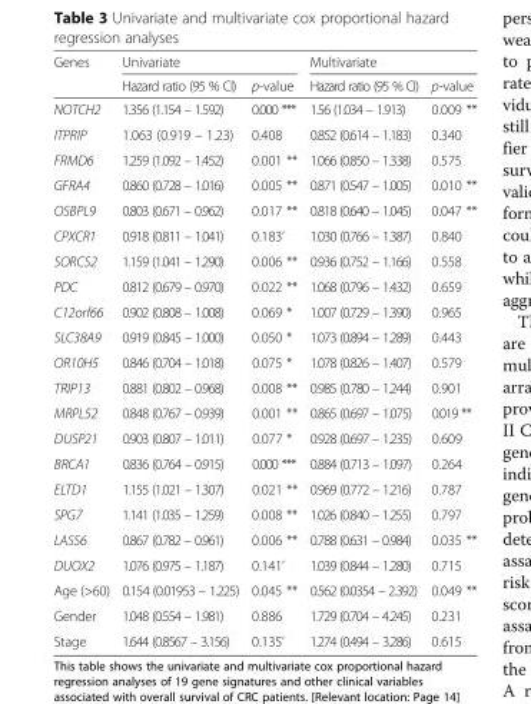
<table><thead><tr><td rowspan="2">Genes</td><td colspan="2">Univariate</td><td colspan="2">Multivariate</td></tr><tr><td>Hazard ratio (95 % CI)</td><td>p-value</td><td>Hazard ratio (95 % CI)</td><td>p-value</td></tr></thead><tbody><tr><td>NOTCH2</td><td>1.356 (1.154 – 1.592)</td><td>0.000 ***</td><td>1.56 (1.034 – 1.913)</td><td>0.009 **</td></tr><tr><td>ITPRIP</td><td>1.063 (0.919 – 1.23)</td><td>0.408</td><td>0.852 (0.614 – 1.183)</td><td>0.340</td></tr><tr><td>FRMD6</td><td>1.259 (1.092 – 1.452)</td><td>0.001 **</td><td>1.066 (0.850 – 1.338)</td><td>0.575</td></tr><tr><td>GFRA4</td><td>0.860 (0.728 – 1.016)</td><td>0.005 **</td><td>0.871 (0.547 – 1.005)</td><td>0.010 **</td></tr><tr><td>OSBPL9</td><td>0.803 (0.671 – 0.962)</td><td>0.017 **</td><td>0.818 (0.640 – 1.045)</td><td>0.047 **</td></tr><tr><td>CPXCR1</td><td>0.918 (0.811 – 1.041)</td><td>0.183’</td><td>1.030 (0.766 – 1.387)</td><td>0.840</td></tr><tr><td>SORCS2</td><td>1.159 (1.041 – 1.290)</td><td>0.006 **</td><td>0.936 (0.752 – 1.166)</td><td>0.558</td></tr><tr><td>PDC</td><td>0.812 (0.679 – 0.970)</td><td>0.022 **</td><td>1.068 (0.796 – 1.432)</td><td>0.659</td></tr><tr><td>C12orf66</td><td>0.902 (0.808 – 1.008)</td><td>0.069 *</td><td>1.007 (0.729 – 1.390)</td><td>0.965</td></tr><tr><td>SLC38A9</td><td>0.919 (0.845 – 1.000)</td><td>0.050 *</td><td>1.073 (0.894 – 1.289)</td><td>0.443</td></tr><tr><td>OR10H5</td><td>0.846 (0.704 – 1.018)</td><td>0.075 *</td><td>1.078 (0.826 – 1.407)</td><td>0.579</td></tr><tr><td>TRIP13</td><td>0.881 (0.802 – 0.968)</td><td>0.008 **</td><td>0.985 (0.780 – 1.244)</td><td>0.901</td></tr><tr><td>MRPL52</td><td>0.848 (0.767 – 0.939)</td><td>0.001 **</td><td>0.865 (0.697 – 1.075)</td><td>0.019 **</td></tr><tr><td>DUSP21</td><td>0.903 (0.807 – 1.011)</td><td>0.077 *</td><td>0.928 (0.697 – 1.235)</td><td>0.609</td></tr><tr><td>BRCA1</td><td>0.836 (0.764 – 0.915)</td><td>0.000 ***</td><td>0.884 (0.713 – 1.097)</td><td>0.264</td></tr><tr><td>ELTD1</td><td>1.155 (1.021 – 1.307)</td><td>0.021 **</td><td>0.969 (0.772 – 1.216)</td><td>0.787</td></tr><tr><td>SPG7</td><td>1.141 (1.035 – 1.259)</td><td>0.008 **</td><td>1.026 (0.840 – 1.255)</td><td>0.797</td></tr><tr><td>LASS6</td><td>0.867 (0.782 – 0.961)</td><td>0.006 **</td><td>0.788 (0.631 – 0.984)</td><td>0.035 **</td></tr><tr><td>DUOX2</td><td>1.076 (0.975 – 1.187)</td><td>0.141’</td><td>1.039 (0.844 – 1.280)</td><td>0.715</td></tr><tr><td>Age (&gt;60)</td><td>0.154 (0.01953 – 1.225)</td><td>0.045 **</td><td>0.562 (0.0354 – 2.392)</td><td>0.049 **</td></tr><tr><td>Gender</td><td>1.048 (0.554 – 1.981)</td><td>0.886</td><td>1.729 (0.704 – 4.245)</td><td>0.231</td></tr><tr><td>Stage</td><td>1.644 (0.8567 – 3.156)</td><td>0.135’</td><td>1.274 (0.494 – 3.286)</td><td>0.615</td></tr></tbody></table>